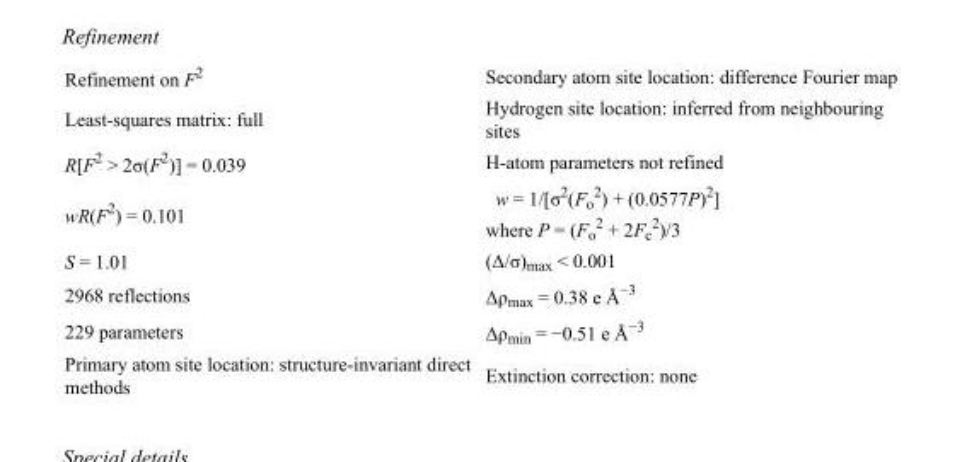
<table><tbody><tr><td>Refinement on F2</td><td>Secondary atom site location: difference Fourier map</td></tr><tr><td>Least-squares matrix: full</td><td>Hydrogen site location: inferred from neighbouring sites</td></tr><tr><td>R[F2 &gt; 2σ(F2)] = 0.039</td><td>H-atom parameters not refined</td></tr><tr><td>wR(F2) = 0.101</td><td>w = 1/[σ2(Fo 2) + (0.0577P)2] where P = (Fo 2 + 2Fc 2)/3</td></tr><tr><td>S = 1.01</td><td>(Δ/σ)max &lt; 0.001</td></tr><tr><td>2968 reflections</td><td>Δρmax = 0.38 e Å−3</td></tr><tr><td>229 parameters</td><td>Δρmin = −0.51 e Å−3</td></tr><tr><td>Primary atom site location: structure-invariant direct methods</td><td>Extinction correction: none</td></tr></tbody></table>